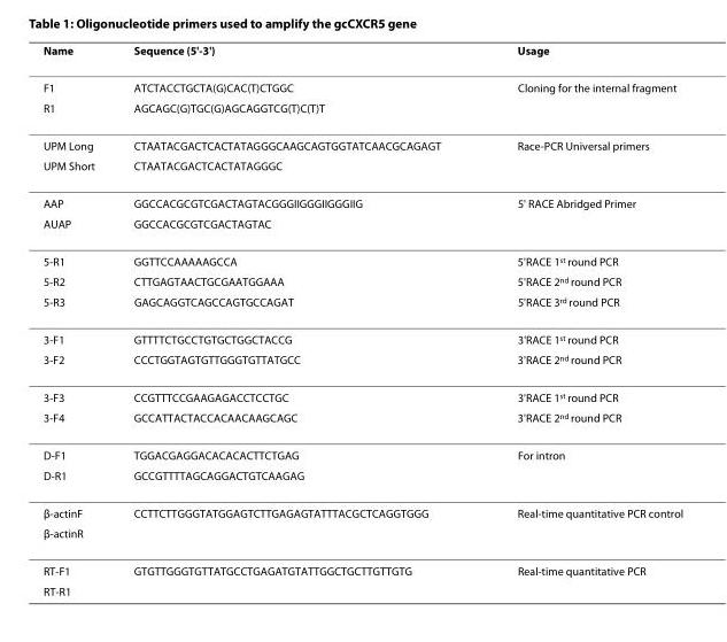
<table><thead><tr><td>Name</td><td>Sequence (5&#x27;-3&#x27;)</td><td>Usage</td></tr></thead><tbody><tr><td>F1</td><td>ATCTACCTGCTA(G)CAC(T)CTGGC</td><td>Cloning for the internal fragment</td></tr><tr><td>R1</td><td>AGCAGC(G)TGC(G)AGCAGGTCG(T)C(T)T</td><td></td></tr><tr><td>UPM Long</td><td>CTAATACGACTCACTATAGGGCAAGCAGTGGTATCAACGCAGAGT</td><td>Race-PCR Universal primers</td></tr><tr><td>UPM Short</td><td>CTAATACGACTCACTATAGGGC</td><td></td></tr><tr><td>AAP</td><td>GGCCACGCGTCGACTAGTACGGGIIGGGIIGGGIIG</td><td>5&#x27; RACE Abridged Primer</td></tr><tr><td>AUAP</td><td>GGCCACGCGTCGACTAGTAC</td><td></td></tr><tr><td>5-R1</td><td>GGTTCCAAAAAGCCA</td><td>5&#x27;RACE 1<sup>st</sup> round PCR</td></tr><tr><td>5-R2</td><td>CTTGAGTAACTGCGAATGGAAA</td><td>5&#x27;RACE 2<sup>nd</sup> round PCR</td></tr><tr><td>5-R3</td><td>GAGCAGGTCAGCCAGTGCCAGAT</td><td>5&#x27;RACE 3<sup>rd</sup> round PCR</td></tr><tr><td>3-F1</td><td>GTTTTCTGCCTGTGCTGGCTACCG</td><td>3&#x27;RACE 1<sup>st</sup> round PCR</td></tr><tr><td>3-F2</td><td>CCCTGGTAGTGTTGGGTGTTATGCC</td><td>3&#x27;RACE 2<sup>nd</sup> round PCR</td></tr><tr><td>3-F3</td><td>CCGTTTCCGAAGAGACCTCCTGC</td><td>3&#x27;RACE 1<sup>st</sup> round PCR</td></tr><tr><td>3-F4</td><td>GCCATTACTACCACAACAAGCAGC</td><td>3&#x27;RACE 2<sup>nd</sup> round PCR</td></tr><tr><td>D-F1</td><td>TGGACGAGGACACACACTTCTGAG</td><td>For intron</td></tr><tr><td>D-R1</td><td>GCCGTTTTAGCAGGACTGTCAAGAG</td><td></td></tr><tr><td>β-actinF</td><td>CCTTCTTGGGTATGGAGTCTTGAGAGTATTTACGCTCAGGTGGG</td><td>Real-time quantitative PCR control</td></tr><tr><td colspan="3">β-actinR</td></tr><tr><td>RT-F1</td><td>GTGTTGGGTGTTATGCCTGAGATGTATTGGCTGCTTGTTGTG</td><td>Real-time quantitative PCR</td></tr><tr><td>RT-R1</td><td></td><td></td></tr></tbody></table>